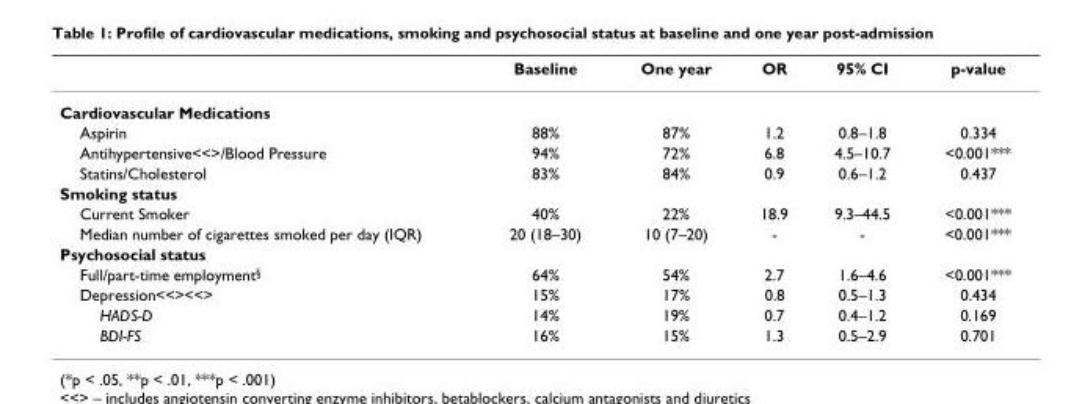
<table><thead><tr><td></td><td>Baseline</td><td>One year</td><td>OR</td><td>95% CI</td><td>p-value</td></tr></thead><tbody><tr><td colspan="6">Cardiovascular Medications</td></tr><tr><td>Aspirin</td><td>88%</td><td>87%</td><td>1.2</td><td>0.8–1.8</td><td>0.334</td></tr><tr><td>Antihypertensive&lt;&lt;&gt;/Blood Pressure</td><td>94%</td><td>72%</td><td>6.8</td><td>4.5–10.7</td><td>&lt;0.001***</td></tr><tr><td>Statins/Cholesterol</td><td>83%</td><td>84%</td><td>0.9</td><td>0.6–1.2</td><td>0.437</td></tr><tr><td colspan="6">Smoking status</td></tr><tr><td>Current Smoker</td><td>40%</td><td>22%</td><td>18.9</td><td>9.3–44.5</td><td>&lt;0.001***</td></tr><tr><td>Median number of cigarettes smoked per day (IQR)</td><td>20 (18–30)</td><td>10 (7–20)</td><td>-</td><td>-</td><td>&lt;0.001***</td></tr><tr><td colspan="6">Psychosocial status</td></tr><tr><td>Full/part-time employment§</td><td>64%</td><td>54%</td><td>2.7</td><td>1.6–4.6</td><td>&lt;0.001***</td></tr><tr><td>Depression&lt;&lt;&gt;&lt;&lt;&gt;</td><td>15%</td><td>17%</td><td>0.8</td><td>0.5–1.3</td><td>0.434</td></tr><tr><td>HADS-D</td><td>14%</td><td>19%</td><td>0.7</td><td>0.4–1.2</td><td>0.169</td></tr><tr><td>BDI-FS</td><td>16%</td><td>15%</td><td>1.3</td><td>0.5–2.9</td><td>0.701</td></tr></tbody></table>